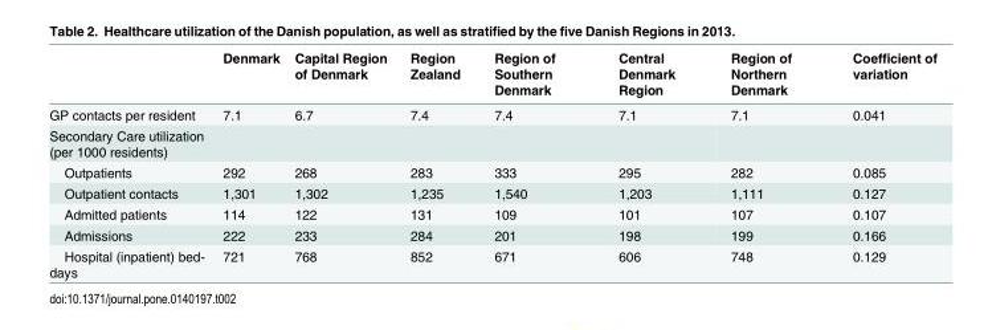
<table><thead><tr><td></td><td>Denmark</td><td>Capital Region of Denmark</td><td>Region Zealand</td><td>Region of Southern Denmark</td><td>Central Denmark Region</td><td>Region of Northern Denmark</td><td>Coefficient of variation</td></tr></thead><tbody><tr><td>GP contacts per resident</td><td>7.1</td><td>6.7</td><td>7.4</td><td>7.4</td><td>7.1</td><td>7.1</td><td>0.041</td></tr><tr><td colspan="8">Secondary Care utilization (per 1000 residents)</td></tr><tr><td>Outpatients</td><td>292</td><td>268</td><td>283</td><td>333</td><td>295</td><td>282</td><td>0.085</td></tr><tr><td>Outpatient contacts</td><td>1,301</td><td>1,302</td><td>1,235</td><td>1,540</td><td>1,203</td><td>1,111</td><td>0.127</td></tr><tr><td>Admitted patients</td><td>114</td><td>122</td><td>131</td><td>109</td><td>101</td><td>107</td><td>0.107</td></tr><tr><td>Admissions</td><td>222</td><td>233</td><td>284</td><td>201</td><td>198</td><td>199</td><td>0.166</td></tr><tr><td>Hospital (inpatient) bed- days</td><td>721</td><td>768</td><td>852</td><td>671</td><td>606</td><td>748</td><td>0.129</td></tr></tbody></table>